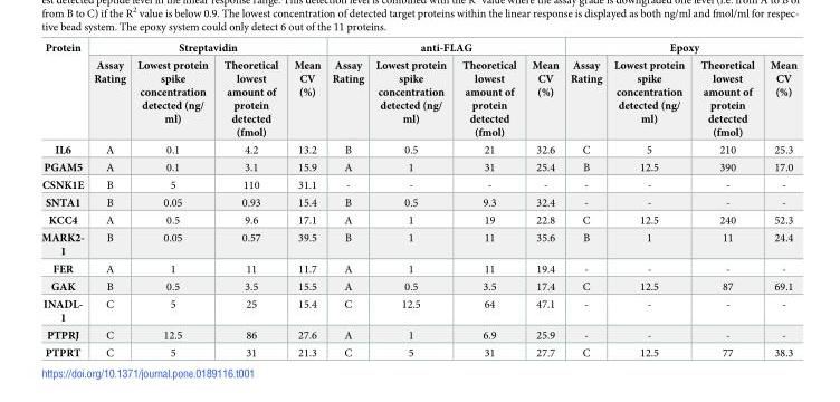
<table><thead><tr><td rowspan="2">Protein</td><td colspan="4">Streptavidin</td><td colspan="4">anti-FLAG</td><td colspan="4">Epoxy</td></tr><tr><td>Assay Rating</td><td>Lowest protein spike concentration detected (ng/ ml)</td><td>Theoretical lowest amount of protein detected (fmol)</td><td>Mean CV (%)</td><td>Assay Rating</td><td>Lowest protein spike concentration detected (ng/ ml)</td><td>Theoretical lowest amount of protein detected (fmol)</td><td>Mean CV (%)</td><td>Assay Rating</td><td>Lowest protein spike concentration detected (ng/ ml)</td><td>Theoretical lowest amount of protein detected (fmol)</td><td>Mean CV (%)</td></tr></thead><tbody><tr><td>IL6</td><td>A</td><td>0.1</td><td>4.2</td><td>13.2</td><td>B</td><td>0.5</td><td>21</td><td>32.6</td><td>C</td><td>5</td><td>210</td><td>25.3</td></tr><tr><td>PGAM5</td><td>A</td><td>0.1</td><td>3.1</td><td>15.9</td><td>A</td><td>1</td><td>31</td><td>25.4</td><td>B</td><td>12.5</td><td>390</td><td>17.0</td></tr><tr><td>CSNK1E</td><td>B</td><td>5</td><td>110</td><td>31.1</td><td>-</td><td>-</td><td>-</td><td>-</td><td>-</td><td>-</td><td>-</td><td>-</td></tr><tr><td>SNTA1</td><td>B</td><td>0.05</td><td>0.93</td><td>15.4</td><td>B</td><td>0.5</td><td>9.3</td><td>32.4</td><td>-</td><td>-</td><td>-</td><td>-</td></tr><tr><td>KCC4</td><td>A</td><td>0.5</td><td>9.6</td><td>17.1</td><td>A</td><td>1</td><td>19</td><td>22.8</td><td>C</td><td>12.5</td><td>240</td><td>52.3</td></tr><tr><td>MARK2- 1</td><td>B</td><td>0.05</td><td>0.57</td><td>39.5</td><td>B</td><td>1</td><td>11</td><td>35.6</td><td>B</td><td>1</td><td>11</td><td>24.4</td></tr><tr><td>FER</td><td>A</td><td>1</td><td>11</td><td>11.7</td><td>A</td><td>1</td><td>11</td><td>19.4</td><td>-</td><td>-</td><td>-</td><td>-</td></tr><tr><td>GAK</td><td>B</td><td>0.5</td><td>3.5</td><td>15.5</td><td>A</td><td>0.5</td><td>3.5</td><td>17.4</td><td>C</td><td>12.5</td><td>87</td><td>69.1</td></tr><tr><td>INADL- 1</td><td>C</td><td>5</td><td>25</td><td>15.4</td><td>C</td><td>12.5</td><td>64</td><td>47.1</td><td>-</td><td>-</td><td>-</td><td>-</td></tr><tr><td>PTPRJ</td><td>C</td><td>12.5</td><td>86</td><td>27.6</td><td>A</td><td>1</td><td>6.9</td><td>25.9</td><td>-</td><td>-</td><td>-</td><td>-</td></tr><tr><td>PTPRT</td><td>C</td><td>5</td><td>31</td><td>21.3</td><td>C</td><td>5</td><td>31</td><td>27.7</td><td>C</td><td>12.5</td><td>77</td><td>38.3</td></tr></tbody></table>